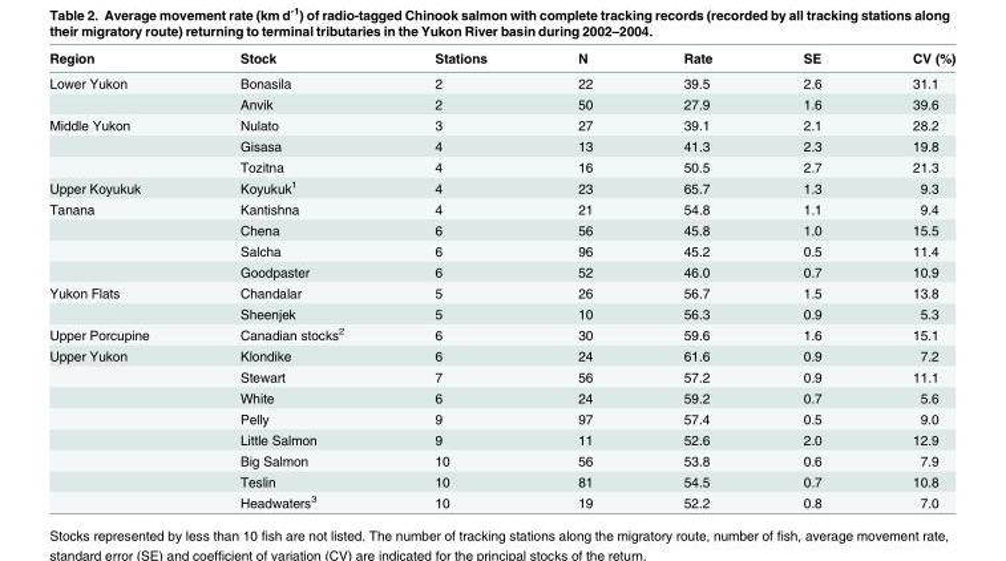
<table><thead><tr><td>Region</td><td>Stock</td><td>Stations</td><td>N</td><td>Rate</td><td>SE</td><td>CV (%)</td></tr></thead><tbody><tr><td rowspan="2">Lower Yukon</td><td>Bonasila</td><td>2</td><td>22</td><td>39.5</td><td>2.6</td><td>31.1</td></tr><tr><td>Anvik</td><td>2</td><td>50</td><td>27.9</td><td>1.6</td><td>39.6</td></tr><tr><td rowspan="3">Middle Yukon</td><td>Nulato</td><td>3</td><td>27</td><td>39.1</td><td>2.1</td><td>28.2</td></tr><tr><td>Gisasa</td><td>4</td><td>13</td><td>41.3</td><td>2.3</td><td>19.8</td></tr><tr><td>Tozitna</td><td>4</td><td>16</td><td>50.5</td><td>2.7</td><td>21.3</td></tr><tr><td>Upper Koyukuk</td><td>Koyukuk<sup>1</sup></td><td>4</td><td>23</td><td>65.7</td><td>1.3</td><td>9.3</td></tr><tr><td rowspan="4">Tanana</td><td>Kantishna</td><td>4</td><td>21</td><td>54.8</td><td>1.1</td><td>9.4</td></tr><tr><td>Chena</td><td>6</td><td>56</td><td>45.8</td><td>1.0</td><td>15.5</td></tr><tr><td>Salcha</td><td>6</td><td>96</td><td>45.2</td><td>0.5</td><td>11.4</td></tr><tr><td>Goodpaster</td><td>6</td><td>52</td><td>46.0</td><td>0.7</td><td>10.9</td></tr><tr><td rowspan="2">Yukon Flats</td><td>Chandalar</td><td>5</td><td>26</td><td>56.7</td><td>1.5</td><td>13.8</td></tr><tr><td>Sheenjek</td><td>5</td><td>10</td><td>56.3</td><td>0.9</td><td>5.3</td></tr><tr><td>Upper Porcupine</td><td>Canadian stocks<sup>2</sup></td><td>6</td><td>30</td><td>59.6</td><td>1.6</td><td>15.1</td></tr><tr><td rowspan="8">Upper Yukon</td><td>Klondike</td><td>6</td><td>24</td><td>61.6</td><td>0.9</td><td>7.2</td></tr><tr><td>Stewart</td><td>7</td><td>56</td><td>57.2</td><td>0.9</td><td>11.1</td></tr><tr><td>White</td><td>6</td><td>24</td><td>59.2</td><td>0.7</td><td>5.6</td></tr><tr><td>Pelly</td><td>9</td><td>97</td><td>57.4</td><td>0.5</td><td>9.0</td></tr><tr><td>Little Salmon</td><td>9</td><td>11</td><td>52.6</td><td>2.0</td><td>12.9</td></tr><tr><td>Big Salmon</td><td>10</td><td>56</td><td>53.8</td><td>0.6</td><td>7.9</td></tr><tr><td>Teslin</td><td>10</td><td>81</td><td>54.5</td><td>0.7</td><td>10.8</td></tr><tr><td>Headwaters<sup>3</sup></td><td>10</td><td>19</td><td>52.2</td><td>0.8</td><td>7.0</td></tr></tbody></table>